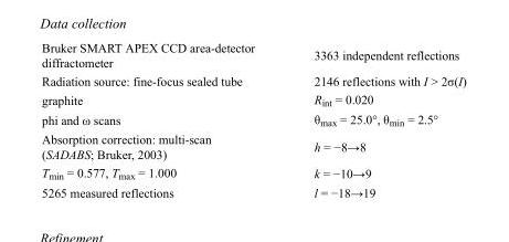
<table><tbody><tr><td>Bruker SMART APEX CCD area-detector diffractometer</td><td>3363 independent reflections</td></tr><tr><td>Radiation source: fine-focus sealed tube</td><td>2146 reflections with I &gt; 2σ(I)</td></tr><tr><td>graphite</td><td>R<sub>int</sub> = 0.020</td></tr><tr><td>phi and ω scans</td><td>θ<sub>max</sub> = 25.0°, θ<sub>min</sub> = 2.5°</td></tr><tr><td>Absorption correction: multi-scan (SADABS; Bruker, 2003)</td><td>h = −8→8</td></tr><tr><td>T<sub>min</sub> = 0.577, T<sub>max</sub> = 1.000</td><td>k = −10→9</td></tr><tr><td>5265 measured reflections</td><td>l = −18→19</td></tr></tbody></table>